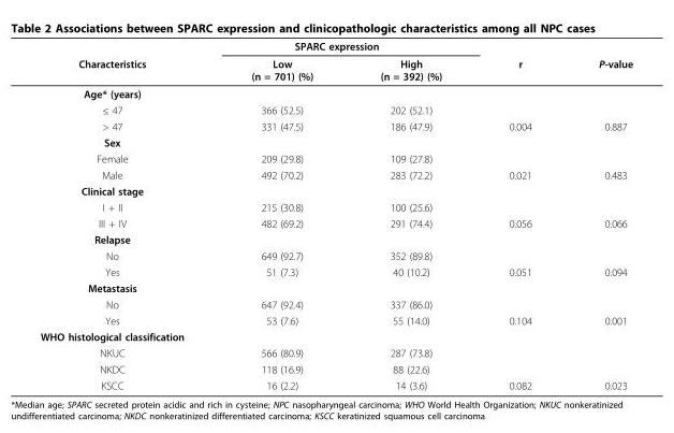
<table><thead><tr><td colspan="5">SPARC expression</td></tr><tr><td>Characteristics</td><td>Low (n = 701) (%)</td><td>High (n = 392) (%)</td><td>r</td><td>P-value</td></tr></thead><tbody><tr><td colspan="5">Age* (years)</td></tr><tr><td>≤ 47</td><td>366 (52.5)</td><td>202 (52.1)</td><td></td><td></td></tr><tr><td>&gt; 47</td><td>331 (47.5)</td><td>186 (47.9)</td><td>0.004</td><td>0.887</td></tr><tr><td colspan="5">Sex</td></tr><tr><td>Female</td><td>209 (29.8)</td><td>109 (27.8)</td><td></td><td></td></tr><tr><td>Male</td><td>492 (70.2)</td><td>283 (72.2)</td><td>0.021</td><td>0.483</td></tr><tr><td colspan="5">Clinical stage</td></tr><tr><td>I + II</td><td>215 (30.8)</td><td>100 (25.6)</td><td></td><td></td></tr><tr><td>III + IV</td><td>482 (69.2)</td><td>291 (74.4)</td><td>0.056</td><td>0.066</td></tr><tr><td colspan="5">Relapse</td></tr><tr><td>No</td><td>649 (92.7)</td><td>352 (89.8)</td><td></td><td></td></tr><tr><td>Yes</td><td>51 (7.3)</td><td>40 (10.2)</td><td>0.051</td><td>0.094</td></tr><tr><td colspan="5">Metastasis</td></tr><tr><td>No</td><td>647 (92.4)</td><td>337 (86.0)</td><td></td><td></td></tr><tr><td>Yes</td><td>53 (7.6)</td><td>55 (14.0)</td><td>0.104</td><td>0.001</td></tr><tr><td colspan="5">WHO histological classification</td></tr><tr><td>NKUC</td><td>566 (80.9)</td><td>287 (73.8)</td><td></td><td></td></tr><tr><td>NKDC</td><td>118 (16.9)</td><td>88 (22.6)</td><td></td><td></td></tr><tr><td>KSCC</td><td>16 (2.2)</td><td>14 (3.6)</td><td>0.082</td><td>0.023</td></tr></tbody></table>